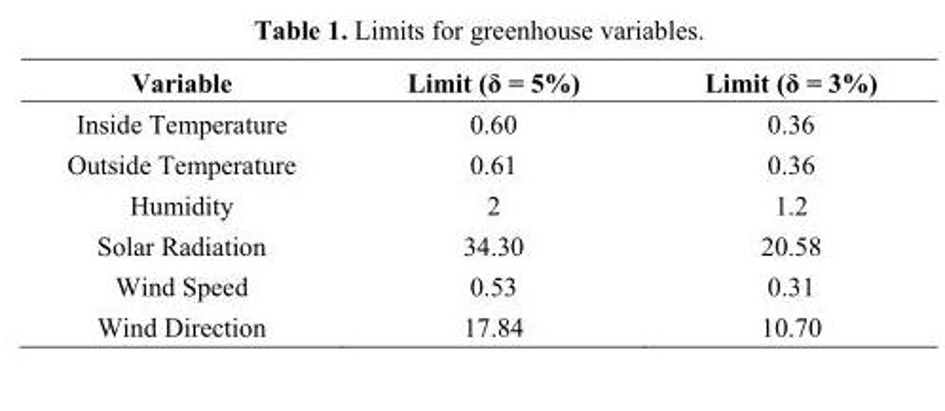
<table><thead><tr><td>Variable</td><td>Limit (δ = 5%)</td><td>Limit (δ = 3%)</td></tr></thead><tbody><tr><td>Inside Temperature</td><td>0.60</td><td>0.36</td></tr><tr><td>Outside Temperature</td><td>0.61</td><td>0.36</td></tr><tr><td>Humidity</td><td>2</td><td>1.2</td></tr><tr><td>Solar Radiation</td><td>34.30</td><td>20.58</td></tr><tr><td>Wind Speed</td><td>0.53</td><td>0.31</td></tr><tr><td>Wind Direction</td><td>17.84</td><td>10.70</td></tr></tbody></table>